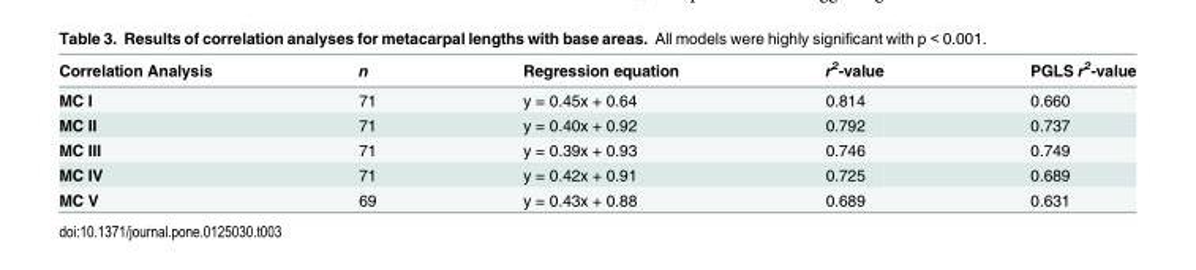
<table><thead><tr><td>Correlation Analysis</td><td>n</td><td>Regression equation</td><td>r<sup>2</sup>-value</td><td>PGLS r<sup>2</sup>-value</td></tr></thead><tbody><tr><td>MC I</td><td>71</td><td>y = 0.45x + 0.64</td><td>0.814</td><td>0.660</td></tr><tr><td>MC II</td><td>71</td><td>y = 0.40x + 0.92</td><td>0.792</td><td>0.737</td></tr><tr><td>MC III</td><td>71</td><td>y = 0.39x + 0.93</td><td>0.746</td><td>0.749</td></tr><tr><td>MC IV</td><td>71</td><td>y = 0.42x + 0.91</td><td>0.725</td><td>0.689</td></tr><tr><td>MC V</td><td>69</td><td>y = 0.43x + 0.88</td><td>0.689</td><td>0.631</td></tr></tbody></table>